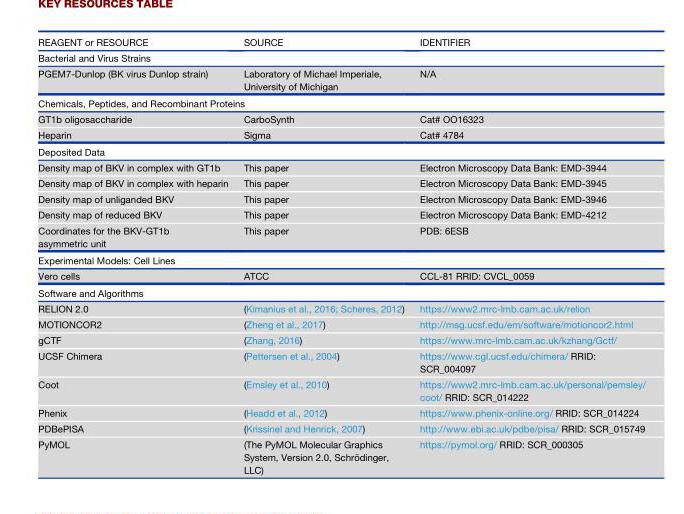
<table><thead><tr><td>REAGENT or RESOURCE</td><td>SOURCE</td><td>IDENTIFIER</td></tr></thead><tbody><tr><td colspan="3">Bacterial and Virus Strains</td></tr><tr><td>PGEM7-Dunlop (BK virus Dunlop strain)</td><td>Laboratory of Michael Imperiale, University of Michigan</td><td>N/A</td></tr><tr><td colspan="3">Chemicals, Peptides, and Recombinant Proteins</td></tr><tr><td>GT1b oligosaccharide</td><td>CarboSynth</td><td>Cat# OO16323</td></tr><tr><td>Heparin</td><td>Sigma</td><td>Cat# 4784</td></tr><tr><td colspan="3">Deposited Data</td></tr><tr><td>Density map of BKV in complex with GT1b</td><td>This paper</td><td>Electron Microscopy Data Bank: EMD-3944</td></tr><tr><td>Density map of BKV in complex with heparin</td><td>This paper</td><td>Electron Microscopy Data Bank: EMD-3945</td></tr><tr><td>Density map of unliganded BKV</td><td>This paper</td><td>Electron Microscopy Data Bank: EMD-3946</td></tr><tr><td>Density map of reduced BKV</td><td>This paper</td><td>Electron Microscopy Data Bank: EMD-4212</td></tr><tr><td>Coordinates for the BKV-GT1b asymmetric unit</td><td>This paper</td><td>PDB: 6ESB</td></tr><tr><td colspan="3">Experimental Models: Cell Lines</td></tr><tr><td>Vero cells</td><td>ATCC</td><td>CCL-81 RRID: CVCL_0059</td></tr><tr><td colspan="3">Software and Algorithms</td></tr><tr><td>RELION 2.0</td><td>(Kimanius et al., 2016; Scheres, 2012)</td><td>https://www2.mrc-lmb.cam.ac.uk/relion</td></tr><tr><td>MOTIONCOR2</td><td>(Zheng et al., 2017)</td><td>http://msg.ucsf.edu/em/software/motioncor2.html</td></tr><tr><td>gCTF</td><td>(Zhang, 2016)</td><td>https://www.mrc-lmb.cam.ac.uk/kzhang/Gctf/</td></tr><tr><td>UCSF Chimera</td><td>(Pettersen et al., 2004)</td><td>https://www.cgl.ucsf.edu/chimera/ RRID: SCR_004097</td></tr><tr><td>Coot</td><td>(Emsley et al., 2010)</td><td>https://www2.mrc-lmb.cam.ac.uk/personal/pemsley/ coot/ RRID: SCR_014222</td></tr><tr><td>Phenix</td><td>(Headd et al., 2012)</td><td>https://www.phenix-online.org/ RRID: SCR_014224</td></tr><tr><td>PDBePISA</td><td>(Krissinel and Henrick, 2007)</td><td>http://www.ebi.ac.uk/pdbe/pisa/ RRID: SCR_015749</td></tr><tr><td>PyMOL</td><td>(The PyMOL Molecular Graphics System, Version 2.0, Schro¨ dinger, LLC)</td><td>https://pymol.org/ RRID: SCR_000305</td></tr></tbody></table>